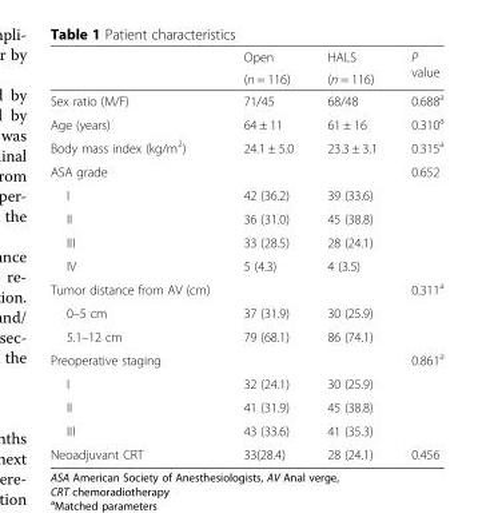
<table><thead><tr><td rowspan="2"></td><td rowspan="2">Open (n = 116)</td><td rowspan="2">HALS (n = 116)</td><td rowspan="2">P value</td></tr><tr></tr></thead><tbody><tr><td>Sex ratio (M/F)</td><td>71/45</td><td>68/48</td><td>0.688<sup>a</sup></td></tr><tr><td>Age (years)</td><td>64 ± 11</td><td>61 ± 16</td><td>0.310<sup>a</sup></td></tr><tr><td>Body mass index (kg/m<sup>2</sup>)</td><td>24.1 ± 5.0</td><td>23.3 ± 3.1</td><td>0.315<sup>a</sup></td></tr><tr><td>ASA grade</td><td></td><td></td><td>0.652</td></tr><tr><td>I</td><td>42 (36.2)</td><td>39 (33.6)</td><td></td></tr><tr><td>II</td><td>36 (31.0)</td><td>45 (38.8)</td><td></td></tr><tr><td>III</td><td>33 (28.5)</td><td>28 (24.1)</td><td></td></tr><tr><td>IV</td><td>5 (4.3)</td><td>4 (3.5)</td><td></td></tr><tr><td>Tumor distance from AV (cm)</td><td></td><td></td><td>0.311<sup>a</sup></td></tr><tr><td>0–5 cm</td><td>37 (31.9)</td><td>30 (25.9)</td><td></td></tr><tr><td>5.1–12 cm</td><td>79 (68.1)</td><td>86 (74.1)</td><td></td></tr><tr><td>Preoperative staging</td><td></td><td></td><td>0.861<sup>a</sup></td></tr><tr><td>I</td><td>32 (24.1)</td><td>30 (25.9)</td><td></td></tr><tr><td>II</td><td>41 (31.9)</td><td>45 (38.8)</td><td></td></tr><tr><td>III</td><td>43 (33.6)</td><td>41 (35.3)</td><td></td></tr><tr><td>Neoadjuvant CRT</td><td>33(28.4)</td><td>28 (24.1)</td><td>0.456</td></tr></tbody></table>